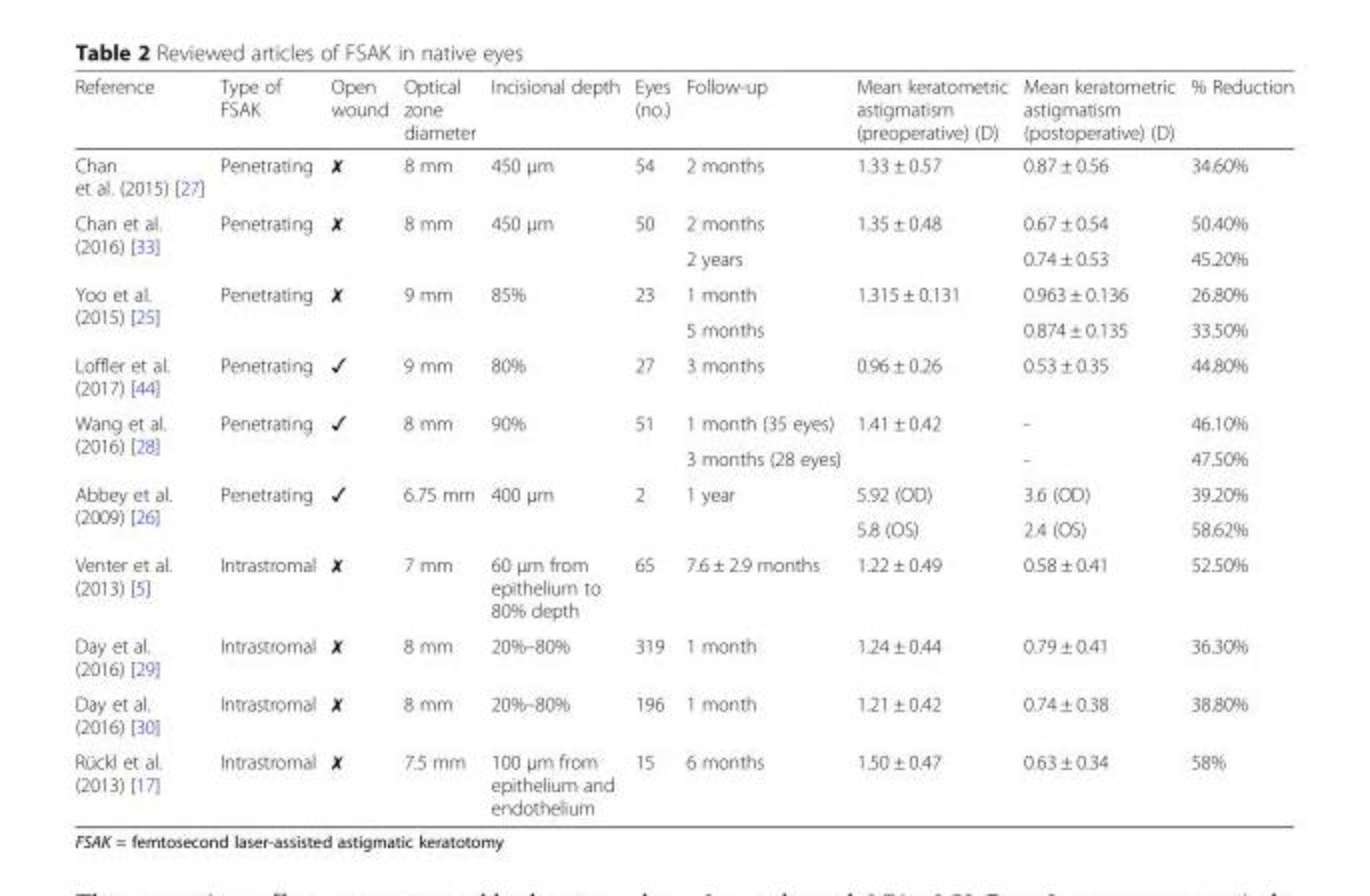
<table><thead><tr><td>Reference</td><td>Type of FSAK</td><td>Open wound</td><td>Optical zone diameter</td><td>Incisional depth</td><td>Eyes (no.)</td><td>Follow-up</td><td>Mean keratometric astigmatism (preoperative) (D)</td><td>Mean keratometric astigmatism (postoperative) (D)</td><td>% Reduction</td></tr></thead><tbody><tr><td>Chan et al. (2015) [27]</td><td>Penetrating</td><td>✗</td><td>8 mm</td><td>450 μm</td><td>54</td><td>2 months</td><td>1.33 ± 0.57</td><td>0.87 ± 0.56</td><td>34.60%</td></tr><tr><td rowspan="2">Chan et al. (2016) [33]</td><td rowspan="2">Penetrating</td><td rowspan="2">✗</td><td rowspan="2">8 mm</td><td rowspan="2">450 μm</td><td rowspan="2">50</td><td>2 months</td><td rowspan="2">1.35 ± 0.48</td><td>0.67 ± 0.54</td><td>50.40%</td></tr><tr><td>2 years</td><td>0.74 ± 0.53</td><td>45.20%</td></tr><tr><td rowspan="2">Yoo et al. (2015) [25]</td><td rowspan="2">Penetrating</td><td rowspan="2">✗</td><td rowspan="2">9 mm</td><td rowspan="2">85%</td><td rowspan="2">23</td><td>1 month</td><td rowspan="2">1.315 ± 0.131</td><td>0.963 ± 0.136</td><td>26.80%</td></tr><tr><td>5 months</td><td>0.874 ± 0.135</td><td>33.50%</td></tr><tr><td>Loffler et al. (2017) [44]</td><td>Penetrating</td><td>✓</td><td>9 mm</td><td>80%</td><td>27</td><td>3 months</td><td>0.96 ± 0.26</td><td>0.53 ± 0.35</td><td>44.80%</td></tr><tr><td rowspan="2">Wang et al. (2016) [28]</td><td rowspan="2">Penetrating</td><td rowspan="2">✓</td><td rowspan="2">8 mm</td><td rowspan="2">90%</td><td rowspan="2">51</td><td>1 month (35 eyes)</td><td rowspan="2">1.41 ± 0.42</td><td>-</td><td>46.10%</td></tr><tr><td>3 months (28 eyes)</td><td>-</td><td>47.50%</td></tr><tr><td rowspan="2">Abbey et al. (2009) [26]</td><td rowspan="2">Penetrating</td><td rowspan="2">✓</td><td rowspan="2">6.75 mm</td><td rowspan="2">400 μm</td><td rowspan="2">2</td><td rowspan="2">1 year</td><td>5.92 (OD)</td><td>3.6 (OD)</td><td>39.20%</td></tr><tr><td>5.8 (OS)</td><td>2.4 (OS)</td><td>58.62%</td></tr><tr><td>Venter et al. (2013) [5]</td><td>Intrastromal</td><td>✗</td><td>7 mm</td><td>60 μm from epithelium to 80% depth</td><td>65</td><td>7.6 ± 2.9 months</td><td>1.22 ± 0.49</td><td>0.58 ± 0.41</td><td>52.50%</td></tr><tr><td>Day et al. (2016) [29]</td><td>Intrastromal</td><td>✗</td><td>8 mm</td><td>20%–80%</td><td>319</td><td>1 month</td><td>1.24 ± 0.44</td><td>0.79 ± 0.41</td><td>36.30%</td></tr><tr><td>Day et al. (2016) [30]</td><td>Intrastromal</td><td>✗</td><td>8 mm</td><td>20%–80%</td><td>196</td><td>1 month</td><td>1.21 ± 0.42</td><td>0.74 ± 0.38</td><td>38.80%</td></tr><tr><td>Rückl et al. (2013) [17]</td><td>Intrastromal</td><td>✗</td><td>7.5 mm</td><td>100 μm from epithelium and endothelium</td><td>15</td><td>6 months</td><td>1.50 ± 0.47</td><td>0.63 ± 0.34</td><td>58%</td></tr></tbody></table>